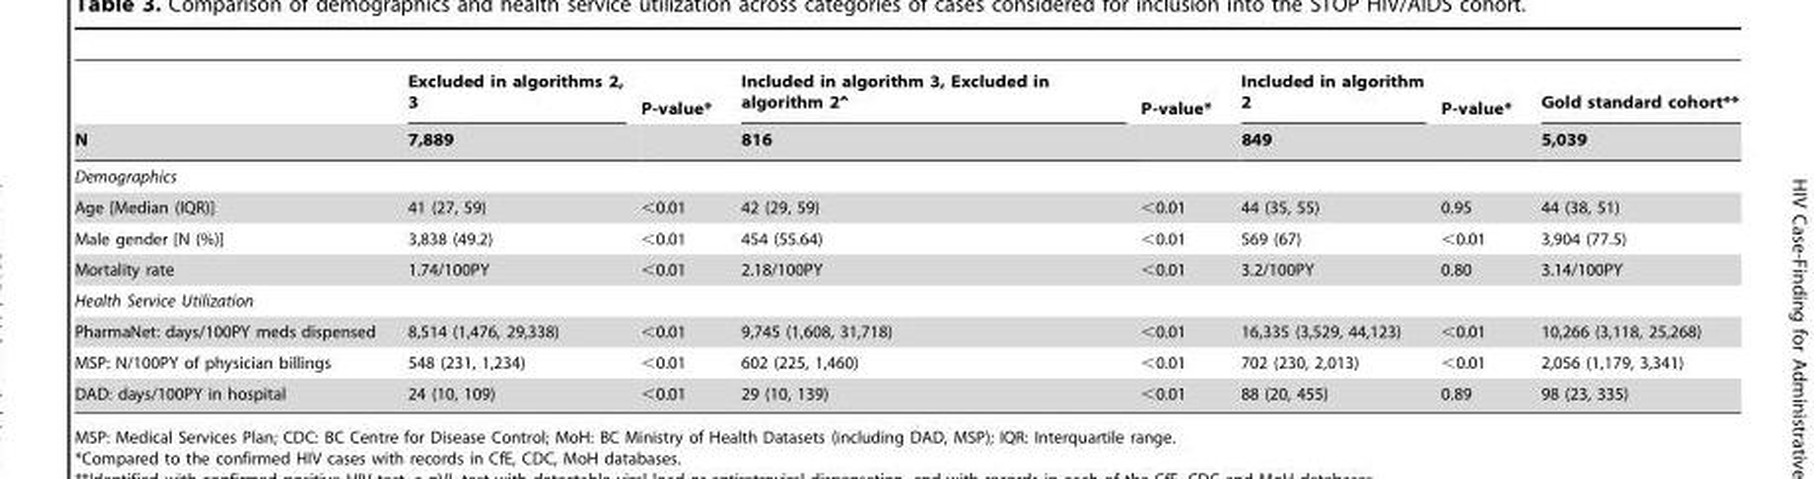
<table><thead><tr><td rowspan="2">N</td><td rowspan="2">Excluded in algorithms 2, 3 7,889</td><td rowspan="2">P-value*</td><td rowspan="2">Included in algorithm 3, Excluded in algorithm 2ˆ 816</td><td rowspan="2">P-value*</td><td rowspan="2">Included in algorithm 2 849</td><td rowspan="2">P-value*</td><td rowspan="2">Gold standard cohort** 5,039</td></tr><tr></tr></thead><tbody><tr><td colspan="8">Demographics</td></tr><tr><td>Age [Median (IQR)]</td><td>41 (27, 59)</td><td>&lt;0.01</td><td>42 (29, 59)</td><td>&lt;0.01</td><td>44 (35, 55)</td><td>0.95</td><td>44 (38, 51)</td></tr><tr><td>Male gender [N (%)]</td><td>3,838 (49.2)</td><td>&lt;0.01</td><td>454 (55.64)</td><td>&lt;0.01</td><td>569 (67)</td><td>&lt;0.01</td><td>3,904 (77.5)</td></tr><tr><td>Mortality rate</td><td>1.74/100PY</td><td>&lt;0.01</td><td>2.18/100PY</td><td>&lt;0.01</td><td>3.2/100PY</td><td>0.80</td><td>3.14/100PY</td></tr><tr><td colspan="8">Health Service Utilization</td></tr><tr><td>PharmaNet: days/100PY meds dispensed</td><td>8,514 (1,476, 29,338)</td><td>&lt;0.01</td><td>9,745 (1,608, 31,718)</td><td>&lt;0.01</td><td>16,335 (3,529, 44,123)</td><td>&lt;0.01</td><td>10,266 (3,118, 25,268)</td></tr><tr><td>MSP: N/100PY of physician billings</td><td>548 (231, 1,234)</td><td>&lt;0.01</td><td>602 (225, 1,460)</td><td>&lt;0.01</td><td>702 (230, 2,013)</td><td>&lt;0.01</td><td>2,056 (1,179, 3,341)</td></tr><tr><td>DAD: days/100PY in hospital</td><td>24 (10, 109)</td><td>&lt;0.01</td><td>29 (10, 139)</td><td>&lt;0.01</td><td>88 (20, 455)</td><td>0.89</td><td>98 (23, 335)</td></tr></tbody></table>